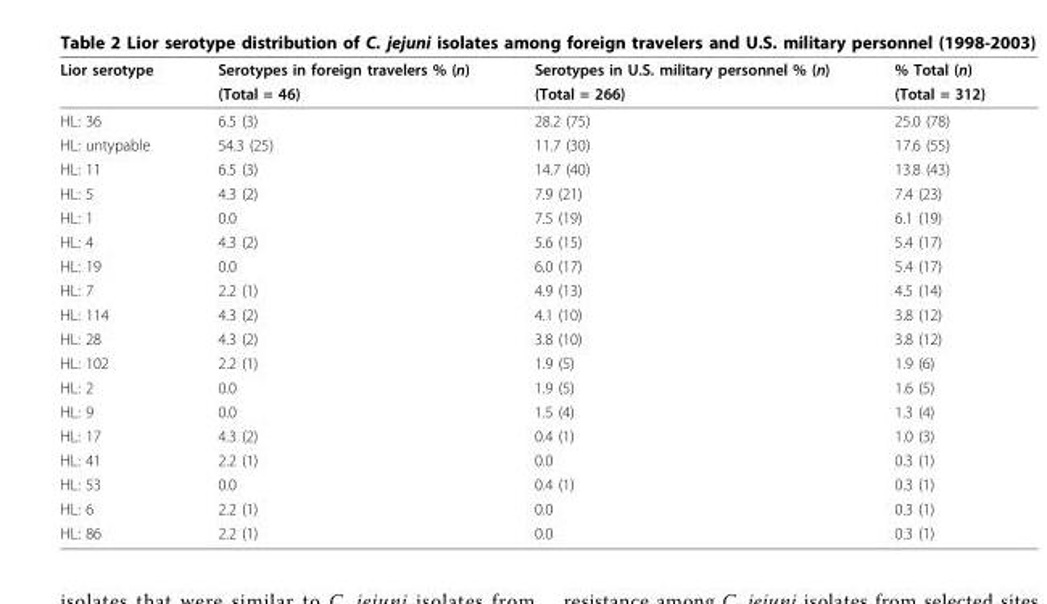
<table><thead><tr><td rowspan="2">Lior serotype</td><td rowspan="2">Serotypes in foreign travelers % (n) (Total = 46)</td><td rowspan="2">Serotypes in U.S. military personnel % (n) (Total = 266)</td><td rowspan="2">% Total (n) (Total = 312)</td></tr><tr></tr></thead><tbody><tr><td>HL: 36</td><td>6.5 (3)</td><td>28.2 (75)</td><td>25.0 (78)</td></tr><tr><td>HL: untypable</td><td>54.3 (25)</td><td>11.7 (30)</td><td>17.6 (55)</td></tr><tr><td>HL: 11</td><td>6.5 (3)</td><td>14.7 (40)</td><td>13.8 (43)</td></tr><tr><td>HL: 5</td><td>4.3 (2)</td><td>7.9 (21)</td><td>7.4 (23)</td></tr><tr><td>HL: 1</td><td>0.0</td><td>7.5 (19)</td><td>6.1 (19)</td></tr><tr><td>HL: 4</td><td>4.3 (2)</td><td>5.6 (15)</td><td>5.4 (17)</td></tr><tr><td>HL: 19</td><td>0.0</td><td>6.0 (17)</td><td>5.4 (17)</td></tr><tr><td>HL: 7</td><td>2.2 (1)</td><td>4.9 (13)</td><td>4.5 (14)</td></tr><tr><td>HL: 114</td><td>4.3 (2)</td><td>4.1 (10)</td><td>3.8 (12)</td></tr><tr><td>HL: 28</td><td>4.3 (2)</td><td>3.8 (10)</td><td>3.8 (12)</td></tr><tr><td>HL: 102</td><td>2.2 (1)</td><td>1.9 (5)</td><td>1.9 (6)</td></tr><tr><td>HL: 2</td><td>0.0</td><td>1.9 (5)</td><td>1.6 (5)</td></tr><tr><td>HL: 9</td><td>0.0</td><td>1.5 (4)</td><td>1.3 (4)</td></tr><tr><td>HL: 17</td><td>4.3 (2)</td><td>0.4 (1)</td><td>1.0 (3)</td></tr><tr><td>HL: 41</td><td>2.2 (1)</td><td>0.0</td><td>0.3 (1)</td></tr><tr><td>HL: 53</td><td>0.0</td><td>0.4 (1)</td><td>0.3 (1)</td></tr><tr><td>HL: 6</td><td>2.2 (1)</td><td>0.0</td><td>0.3 (1)</td></tr><tr><td>HL: 86</td><td>2.2 (1)</td><td>0.0</td><td>0.3 (1)</td></tr></tbody></table>